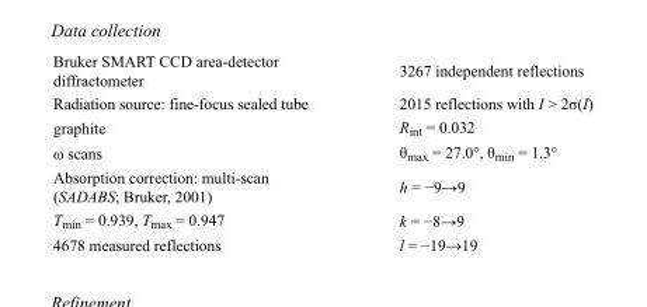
<table><tbody><tr><td>Bruker SMART CCD area-detector diffractometer</td><td>3267 independent reflections</td></tr><tr><td>Radiation source: fine-focus sealed tube</td><td>2015 reflections with I &gt; 2σ(I)</td></tr><tr><td>graphite</td><td>R<sub>int</sub> = 0.032</td></tr><tr><td>ω scans</td><td>θ<sub>max</sub> = 27.0°, θ<sub>min</sub> = 1.3°</td></tr><tr><td>Absorption correction: multi-scan (SADABS; Bruker, 2001)</td><td>h = −9→9</td></tr><tr><td>T<sub>min</sub> = 0.939, T<sub>max</sub> = 0.947</td><td>k = −8→9</td></tr><tr><td>4678 measured reflections</td><td>l = −19→19</td></tr></tbody></table>